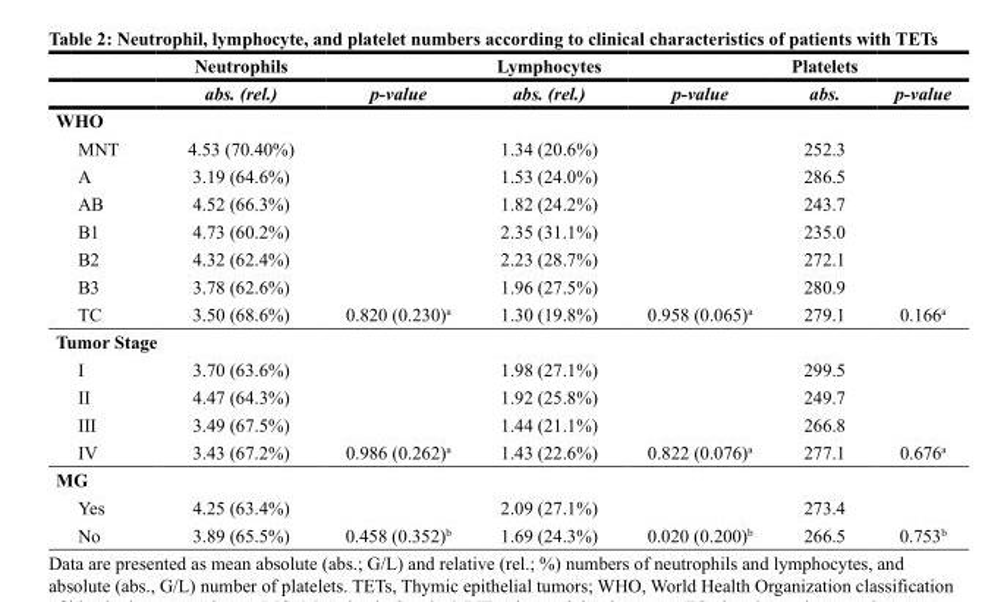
<table><thead><tr><td rowspan="2"></td><td rowspan="2">Neutrophils abs. (rel.)</td><td rowspan="2">p-value</td><td rowspan="2">Lymphocytes abs. (rel.)</td><td rowspan="2">p-value</td><td rowspan="2">Platelets abs.</td><td rowspan="2">p-value</td></tr><tr></tr></thead><tbody><tr><td colspan="7">WHO</td></tr><tr><td>MNT</td><td>4.53 (70.40%)</td><td></td><td>1.34 (20.6%)</td><td></td><td>252.3</td><td></td></tr><tr><td>A</td><td>3.19 (64.6%)</td><td></td><td>1.53 (24.0%)</td><td></td><td>286.5</td><td></td></tr><tr><td>AB</td><td>4.52 (66.3%)</td><td></td><td>1.82 (24.2%)</td><td></td><td>243.7</td><td></td></tr><tr><td>B1</td><td>4.73 (60.2%)</td><td></td><td>2.35 (31.1%)</td><td></td><td>235.0</td><td></td></tr><tr><td>B2</td><td>4.32 (62.4%)</td><td></td><td>2.23 (28.7%)</td><td></td><td>272.1</td><td></td></tr><tr><td>B3</td><td>3.78 (62.6%)</td><td></td><td>1.96 (27.5%)</td><td></td><td>280.9</td><td></td></tr><tr><td>TC</td><td>3.50 (68.6%)</td><td>0.820 (0.230)<sup>a</sup></td><td>1.30 (19.8%)</td><td>0.958 (0.065)<sup>a</sup></td><td>279.1</td><td>0.166<sup>a</sup></td></tr><tr><td colspan="7">Tumor Stage</td></tr><tr><td>I</td><td>3.70 (63.6%)</td><td></td><td>1.98 (27.1%)</td><td></td><td>299.5</td><td></td></tr><tr><td>II</td><td>4.47 (64.3%)</td><td></td><td>1.92 (25.8%)</td><td></td><td>249.7</td><td></td></tr><tr><td>III</td><td>3.49 (67.5%)</td><td></td><td>1.44 (21.1%)</td><td></td><td>266.8</td><td></td></tr><tr><td>IV</td><td>3.43 (67.2%)</td><td>0.986 (0.262)<sup>a</sup></td><td>1.43 (22.6%)</td><td>0.822 (0.076)<sup>a</sup></td><td>277.1</td><td>0.676<sup>a</sup></td></tr><tr><td colspan="7">MG</td></tr><tr><td>Yes</td><td>4.25 (63.4%)</td><td></td><td>2.09 (27.1%)</td><td></td><td>273.4</td><td></td></tr><tr><td>No</td><td>3.89 (65.5%)</td><td>0.458 (0.352)<sup>b</sup></td><td>1.69 (24.3%)</td><td>0.020 (0.200)<sup>b</sup></td><td>266.5</td><td>0.753<sup>b</sup></td></tr></tbody></table>